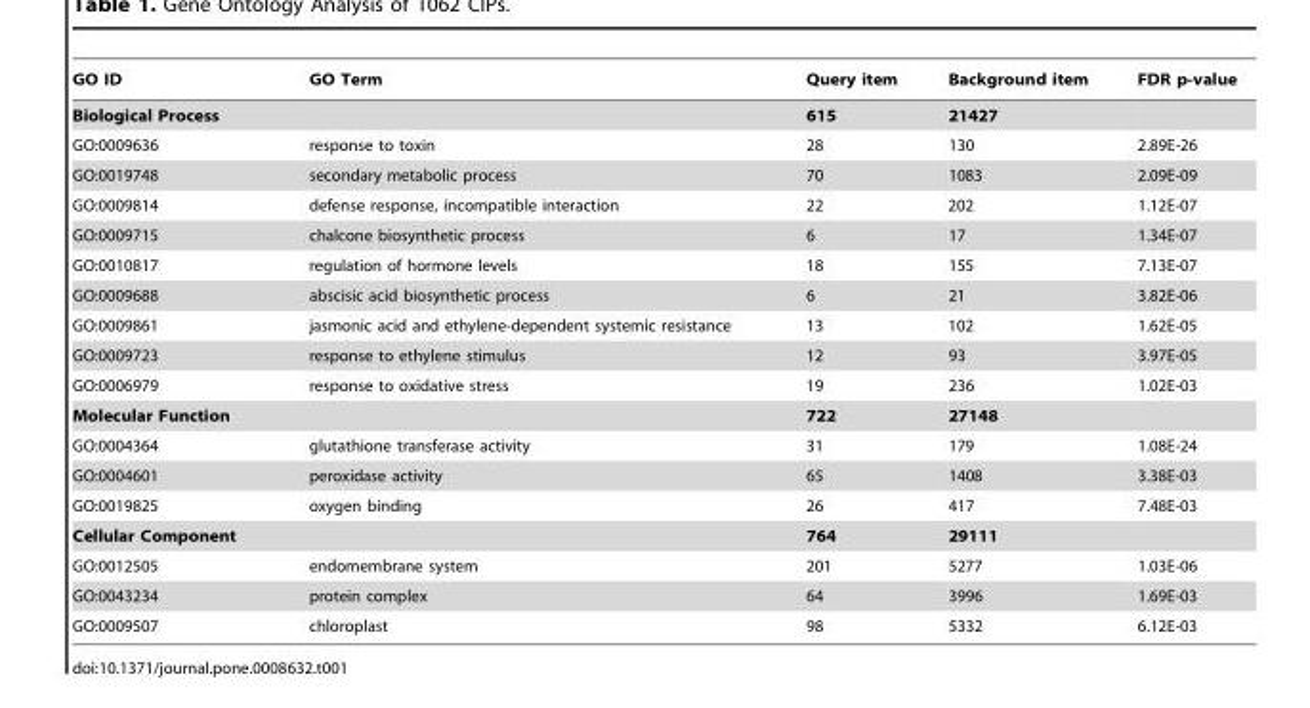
<table><thead><tr><td>GO ID</td><td>GO Term</td><td>Query item</td><td>Background item</td><td>FDR p-value</td></tr></thead><tbody><tr><td colspan="2">Biological Process</td><td>615</td><td>21427</td><td></td></tr><tr><td>GO:0009636</td><td>response to toxin</td><td>28</td><td>130</td><td>2.89E-26</td></tr><tr><td>GO:0019748</td><td>secondary metabolic process</td><td>70</td><td>1083</td><td>2.09E-09</td></tr><tr><td>GO:0009814</td><td>defense response, incompatible interaction</td><td>22</td><td>202</td><td>1.12E-07</td></tr><tr><td>GO:0009715</td><td>chalcone biosynthetic process</td><td>6</td><td>17</td><td>1.34E-07</td></tr><tr><td>GO:0010817</td><td>regulation of hormone levels</td><td>18</td><td>155</td><td>7.13E-07</td></tr><tr><td>GO:0009688</td><td>abscisic acid biosynthetic process</td><td>6</td><td>21</td><td>3.82E-06</td></tr><tr><td>GO:0009861</td><td>jasmonic acid and ethylene-dependent systemic resistance</td><td>13</td><td>102</td><td>1.62E-05</td></tr><tr><td>GO:0009723</td><td>response to ethylene stimulus</td><td>12</td><td>93</td><td>3.97E-05</td></tr><tr><td>GO:0006979</td><td>response to oxidative stress</td><td>19</td><td>236</td><td>1.02E-03</td></tr><tr><td colspan="2">Molecular Function</td><td>722</td><td>27148</td><td></td></tr><tr><td>GO:0004364</td><td>glutathione transferase activity</td><td>31</td><td>179</td><td>1.08E-24</td></tr><tr><td>GO:0004601</td><td>peroxidase activity</td><td>65</td><td>1408</td><td>3.38E-03</td></tr><tr><td>GO:0019825</td><td>oxygen binding</td><td>26</td><td>417</td><td>7.48E-03</td></tr><tr><td colspan="2">Cellular Component</td><td>764</td><td>29111</td><td></td></tr><tr><td>GO:0012505</td><td>endomembrane system</td><td>201</td><td>5277</td><td>1.03E-06</td></tr><tr><td>GO:0043234</td><td>protein complex</td><td>64</td><td>3996</td><td>1.69E-03</td></tr><tr><td>GO:0009507</td><td>chloroplast</td><td>98</td><td>5332</td><td>6.12E-03</td></tr></tbody></table>